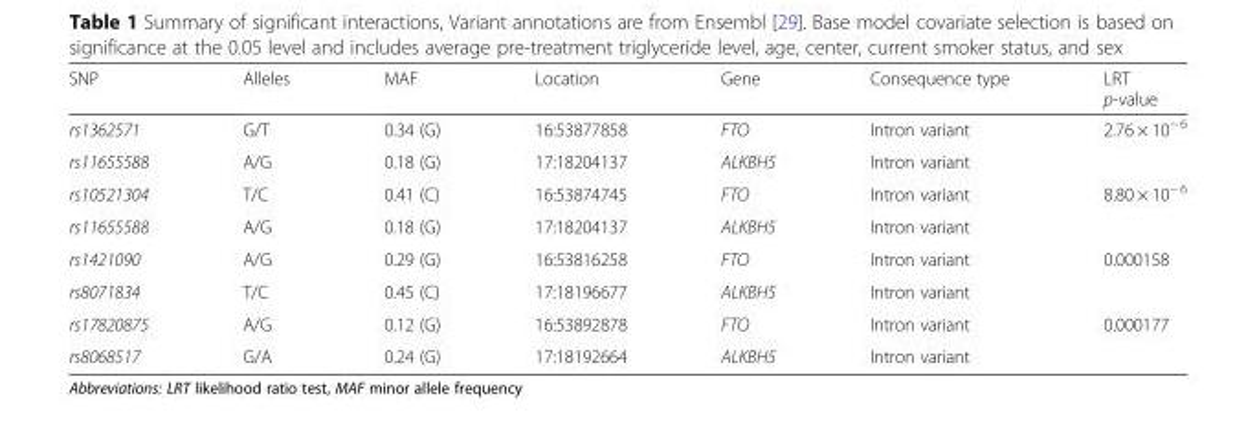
<table><thead><tr><td>SNP</td><td>Alleles</td><td>MAF</td><td>Location</td><td>Gene</td><td>Consequence type</td><td>LRT p-value</td></tr></thead><tbody><tr><td>rs1362571</td><td>G/T</td><td>0.34 (G)</td><td>16:53877858</td><td>FTO</td><td>Intron variant</td><td rowspan="2">2.76 × 10<sup>− 6</sup></td></tr><tr><td>rs11655588</td><td>A/G</td><td>0.18 (G)</td><td>17:18204137</td><td>ALKBH5</td><td>Intron variant</td></tr><tr><td>rs10521304</td><td>T/C</td><td>0.41 (C)</td><td>16:53874745</td><td>FTO</td><td>Intron variant</td><td rowspan="2">8.80 × 10<sup>− 6</sup></td></tr><tr><td>rs11655588</td><td>A/G</td><td>0.18 (G)</td><td>17:18204137</td><td>ALKBH5</td><td>Intron variant</td></tr><tr><td>rs1421090</td><td>A/G</td><td>0.29 (G)</td><td>16:53816258</td><td>FTO</td><td>Intron variant</td><td rowspan="2">0.000158</td></tr><tr><td>rs8071834</td><td>T/C</td><td>0.45 (C)</td><td>17:18196677</td><td>ALKBH5</td><td>Intron variant</td></tr><tr><td>rs17820875</td><td>A/G</td><td>0.12 (G)</td><td>16:53892878</td><td>FTO</td><td>Intron variant</td><td rowspan="2">0.000177</td></tr><tr><td>rs8068517</td><td>G/A</td><td>0.24 (G)</td><td>17:18192664</td><td>ALKBH5</td><td>Intron variant</td></tr></tbody></table>